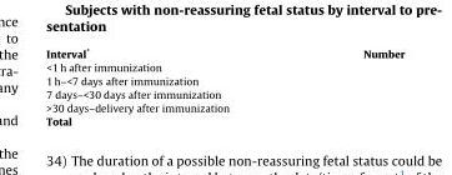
<table><tbody><tr><td>Interval*</td><td>Number</td></tr><tr><td colspan="2">&lt;1 h after immunization</td></tr><tr><td colspan="2">1 h–&lt;7 days after immunization</td></tr><tr><td colspan="2">7 days–&lt;30 days after immunization</td></tr><tr><td colspan="2">&gt;30 days–delivery after immunization</td></tr><tr><td>Total</td><td></td></tr></tbody></table>